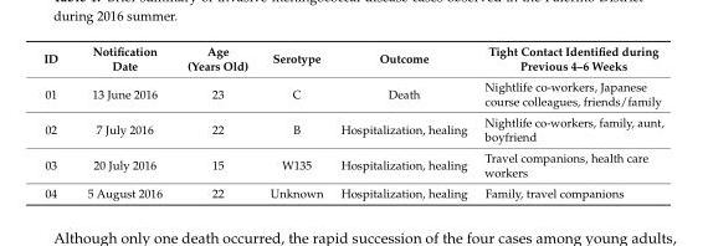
<table><thead><tr><td>ID</td><td>Notification Date</td><td>Age (Years Old)</td><td>Serotype</td><td>Outcome</td><td>Tight Contact Identified during Previous 4–6 Weeks</td></tr></thead><tbody><tr><td>01</td><td>13 June 2016</td><td>23</td><td>C</td><td>Death</td><td>Nightlife co-workers, Japanese course colleagues, friends/family</td></tr><tr><td>02</td><td>7 July 2016</td><td>22</td><td>B</td><td>Hospitalization, healing</td><td>Nightlife co-workers, family, aunt, boyfriend</td></tr><tr><td>03</td><td>20 July 2016</td><td>15</td><td>W135</td><td>Hospitalization, healing</td><td>Travel companions, health care workers</td></tr><tr><td>04</td><td>5 August 2016</td><td>22</td><td>Unknown</td><td>Hospitalization, healing</td><td>Family, travel companions</td></tr></tbody></table>